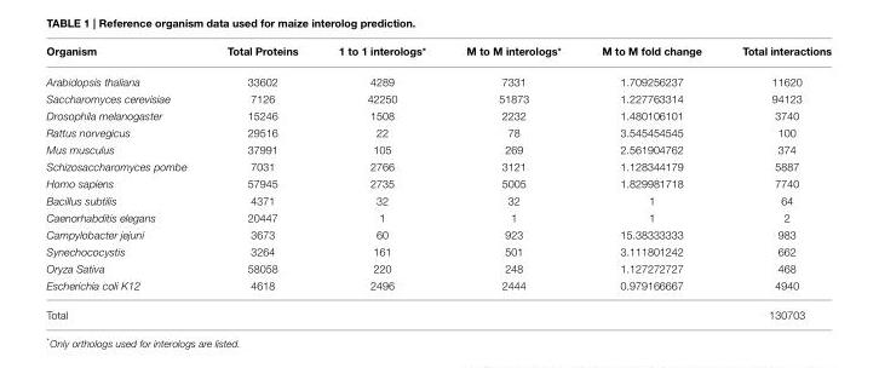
<table><thead><tr><td>Organism</td><td>Total Proteins</td><td>1 to 1 interologs*</td><td>M to M interologs*</td><td>M to M fold change</td><td>Total interactions</td></tr></thead><tbody><tr><td>Arabidopsis thaliana</td><td>33602</td><td>4289</td><td>7331</td><td>1.709256237</td><td>11620</td></tr><tr><td>Saccharomyces cerevisiae</td><td>7126</td><td>42250</td><td>51873</td><td>1.227763314</td><td>94123</td></tr><tr><td>Drosophila melanogaster</td><td>15246</td><td>1508</td><td>2232</td><td>1.480106101</td><td>3740</td></tr><tr><td>Rattus norvegicus</td><td>29516</td><td>22</td><td>78</td><td>3.545454545</td><td>100</td></tr><tr><td>Mus musculus</td><td>37991</td><td>105</td><td>269</td><td>2.561904762</td><td>374</td></tr><tr><td>Schizosaccharomyces pombe</td><td>7031</td><td>2766</td><td>3121</td><td>1.128344179</td><td>5887</td></tr><tr><td>Homo sapiens</td><td>57945</td><td>2735</td><td>5005</td><td>1.829981718</td><td>7740</td></tr><tr><td>Bacillus subtilis</td><td>4371</td><td>32</td><td>32</td><td>1</td><td>64</td></tr><tr><td>Caenorhabditis elegans</td><td>20447</td><td>1</td><td>1</td><td>1</td><td>2</td></tr><tr><td>Campylobacter jejuni</td><td>3673</td><td>60</td><td>923</td><td>15.38333333</td><td>983</td></tr><tr><td>Synechococystis</td><td>3264</td><td>161</td><td>501</td><td>3.111801242</td><td>662</td></tr><tr><td>Oryza Sativa</td><td>58058</td><td>220</td><td>248</td><td>1.127272727</td><td>468</td></tr><tr><td>Escherichia coli K12</td><td>4618</td><td>2496</td><td>2444</td><td>0.979166667</td><td>4940</td></tr><tr><td>Total</td><td></td><td></td><td></td><td></td><td>130703</td></tr></tbody></table>